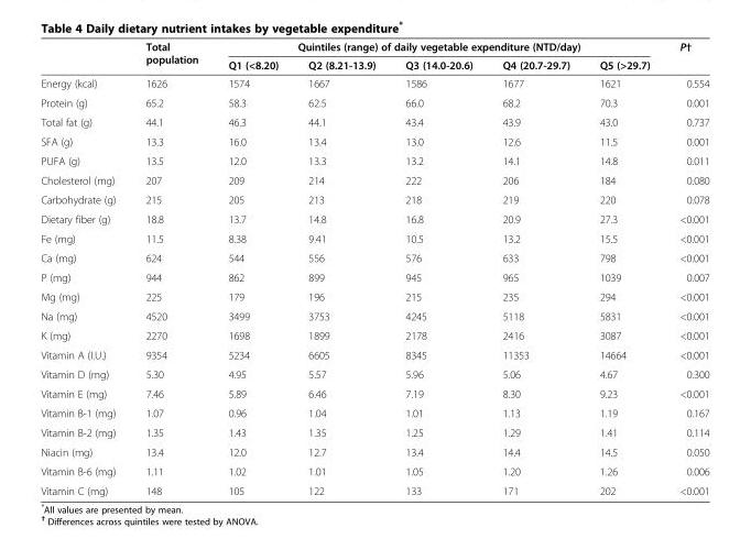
<table><thead><tr><td rowspan="2"></td><td rowspan="2">Total population</td><td colspan="5">Quintiles (range) of daily vegetable expenditure (NTD/day)</td><td rowspan="2">P†</td></tr><tr><td>Q1 (&lt;8.20)</td><td>Q2 (8.21-13.9)</td><td>Q3 (14.0-20.6)</td><td>Q4 (20.7-29.7)</td><td>Q5 (&gt;29.7)</td></tr></thead><tbody><tr><td>Energy (kcal)</td><td>1626</td><td>1574</td><td>1667</td><td>1586</td><td>1677</td><td>1621</td><td>0.554</td></tr><tr><td>Protein (g)</td><td>65.2</td><td>58.3</td><td>62.5</td><td>66.0</td><td>68.2</td><td>70.3</td><td>0.001</td></tr><tr><td>Total fat (g)</td><td>44.1</td><td>46.3</td><td>44.1</td><td>43.4</td><td>43.9</td><td>43.0</td><td>0.737</td></tr><tr><td>SFA (g)</td><td>13.3</td><td>16.0</td><td>13.4</td><td>13.0</td><td>12.6</td><td>11.5</td><td>0.001</td></tr><tr><td>PUFA (g)</td><td>13.5</td><td>12.0</td><td>13.3</td><td>13.2</td><td>14.1</td><td>14.8</td><td>0.011</td></tr><tr><td>Cholesterol (mg)</td><td>207</td><td>209</td><td>214</td><td>222</td><td>206</td><td>184</td><td>0.080</td></tr><tr><td>Carbohydrate (g)</td><td>215</td><td>205</td><td>213</td><td>218</td><td>219</td><td>220</td><td>0.078</td></tr><tr><td>Dietary fiber (g)</td><td>18.8</td><td>13.7</td><td>14.8</td><td>16.8</td><td>20.9</td><td>27.3</td><td>&lt;0.001</td></tr><tr><td>Fe (mg)</td><td>11.5</td><td>8.38</td><td>9.41</td><td>10.5</td><td>13.2</td><td>15.5</td><td>&lt;0.001</td></tr><tr><td>Ca (mg)</td><td>624</td><td>544</td><td>556</td><td>576</td><td>633</td><td>798</td><td>&lt;0.001</td></tr><tr><td>P (mg)</td><td>944</td><td>862</td><td>899</td><td>945</td><td>965</td><td>1039</td><td>0.007</td></tr><tr><td>Mg (mg)</td><td>225</td><td>179</td><td>196</td><td>215</td><td>235</td><td>294</td><td>&lt;0.001</td></tr><tr><td>Na (mg)</td><td>4520</td><td>3499</td><td>3753</td><td>4245</td><td>5118</td><td>5831</td><td>&lt;0.001</td></tr><tr><td>K (mg)</td><td>2270</td><td>1698</td><td>1899</td><td>2178</td><td>2416</td><td>3087</td><td>&lt;0.001</td></tr><tr><td>Vitamin A (I.U.)</td><td>9354</td><td>5234</td><td>6605</td><td>8345</td><td>11353</td><td>14664</td><td>&lt;0.001</td></tr><tr><td>Vitamin D (mg)</td><td>5.30</td><td>4.95</td><td>5.57</td><td>5.96</td><td>5.06</td><td>4.67</td><td>0.300</td></tr><tr><td>Vitamin E (mg)</td><td>7.46</td><td>5.89</td><td>6.46</td><td>7.19</td><td>8.30</td><td>9.23</td><td>&lt;0.001</td></tr><tr><td>Vitamin B-1 (mg)</td><td>1.07</td><td>0.96</td><td>1.04</td><td>1.01</td><td>1.13</td><td>1.19</td><td>0.167</td></tr><tr><td>Vitamin B-2 (mg)</td><td>1.35</td><td>1.43</td><td>1.35</td><td>1.25</td><td>1.29</td><td>1.41</td><td>0.114</td></tr><tr><td>Niacin (mg)</td><td>13.4</td><td>12.0</td><td>12.7</td><td>13.4</td><td>14.4</td><td>14.5</td><td>0.050</td></tr><tr><td>Vitamin B-6 (mg)</td><td>1.11</td><td>1.02</td><td>1.01</td><td>1.05</td><td>1.20</td><td>1.26</td><td>0.006</td></tr><tr><td>Vitamin C (mg)</td><td>148</td><td>105</td><td>122</td><td>133</td><td>171</td><td>202</td><td>&lt;0.001</td></tr></tbody></table>